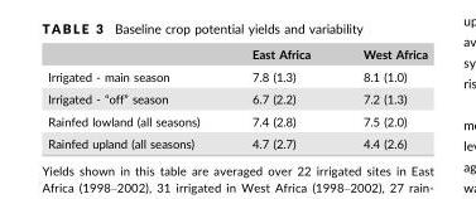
<table><thead><tr><td></td><td>East Africa</td><td>West Africa</td></tr></thead><tbody><tr><td>Irrigated - main season</td><td>7.8 (1.3)</td><td>8.1 (1.0)</td></tr><tr><td>Irrigated - “off” season</td><td>6.7 (2.2)</td><td>7.2 (1.3)</td></tr><tr><td>Rainfed lowland (all seasons)</td><td>7.4 (2.8)</td><td>7.5 (2.0)</td></tr><tr><td>Rainfed upland (all seasons)</td><td>4.7 (2.7)</td><td>4.4 (2.6)</td></tr></tbody></table>